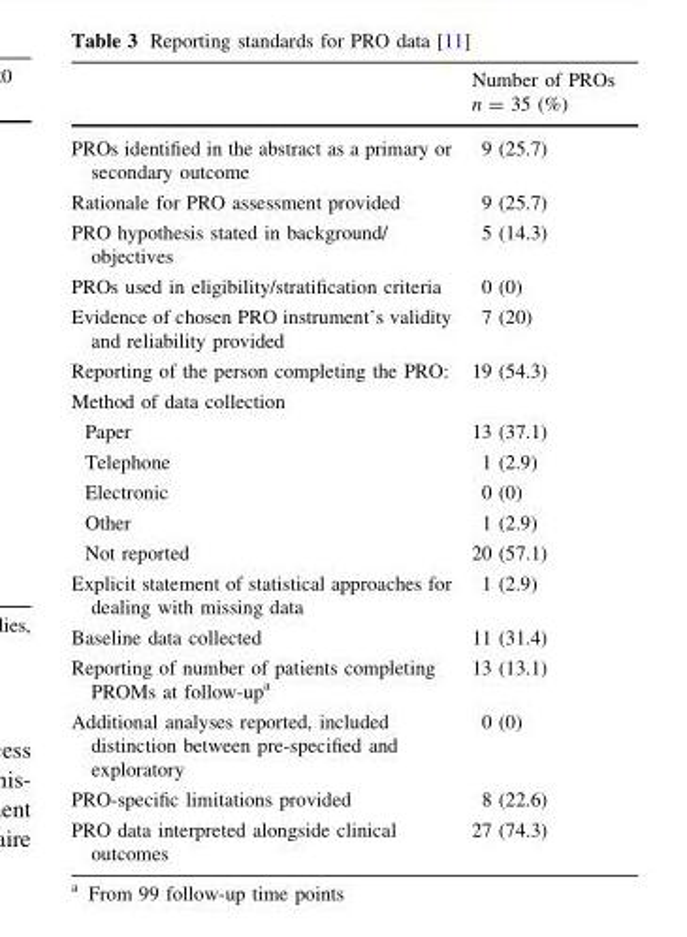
<table><thead><tr><td></td><td>Number of PROs n = 35 (%)</td></tr></thead><tbody><tr><td>PROs identified in the abstract as a primary or secondary outcome</td><td>9 (25.7)</td></tr><tr><td>Rationale for PRO assessment provided</td><td>9 (25.7)</td></tr><tr><td>PRO hypothesis stated in background/ objectives</td><td>5 (14.3)</td></tr><tr><td>PROs used in eligibility/stratification criteria</td><td>0 (0)</td></tr><tr><td>Evidence of chosen PRO instrument’s validity and reliability provided</td><td>7 (20)</td></tr><tr><td>Reporting of the person completing the PRO:</td><td>19 (54.3)</td></tr><tr><td colspan="2">Method of data collection</td></tr><tr><td>Paper</td><td>13 (37.1)</td></tr><tr><td>Telephone</td><td>1 (2.9)</td></tr><tr><td>Electronic</td><td>0 (0)</td></tr><tr><td>Other</td><td>1 (2.9)</td></tr><tr><td>Not reported</td><td>20 (57.1)</td></tr><tr><td>Explicit statement of statistical approaches for dealing with missing data</td><td>1 (2.9)</td></tr><tr><td>Baseline data collected</td><td>11 (31.4)</td></tr><tr><td>Reporting of number of patients completing PROMs at follow-up<sup>a</sup></td><td>13 (13.1)</td></tr><tr><td>Additional analyses reported, included distinction between pre-specified and exploratory</td><td>0 (0)</td></tr><tr><td>PRO-specific limitations provided</td><td>8 (22.6)</td></tr><tr><td>PRO data interpreted alongside clinical outcomes</td><td>27 (74.3)</td></tr></tbody></table>